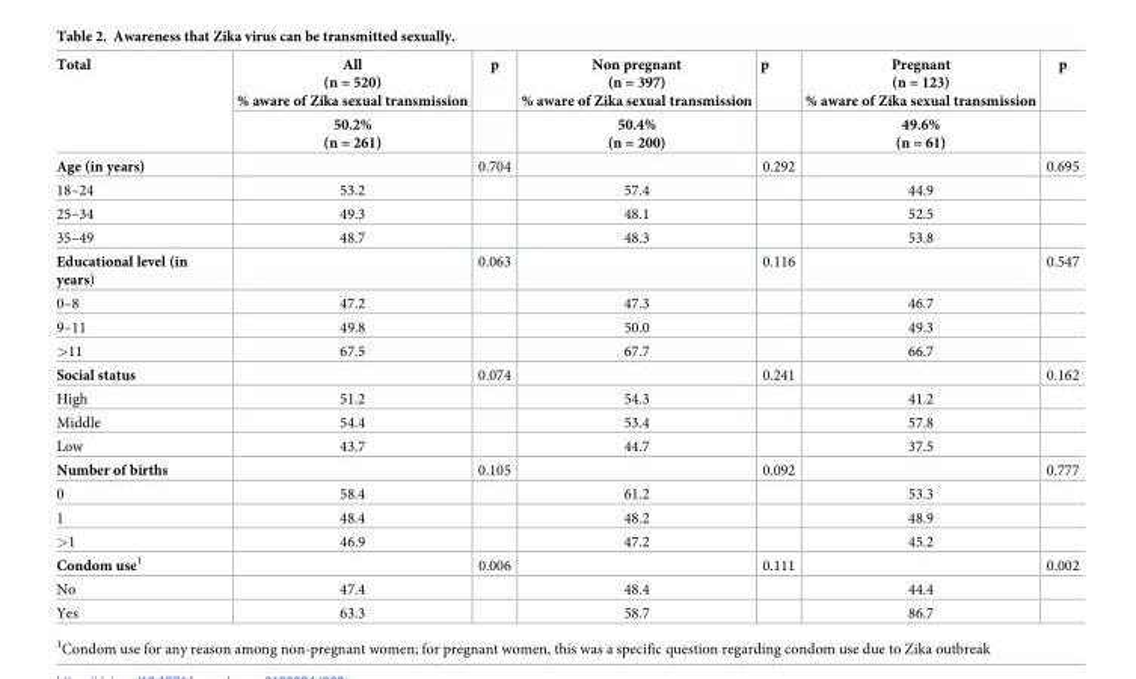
<table><thead><tr><td rowspan="2">Total</td><td rowspan="2">All (n = 520) % aware of Zika sexual transmission 50.2% (n = 261)</td><td rowspan="2">p</td><td rowspan="2">Non pregnant (n = 397) % aware of Zika sexual transmission 50.4% (n = 200)</td><td rowspan="2">p</td><td rowspan="2">Pregnant (n = 123) % aware of Zika sexual transmission 49.6% (n = 61)</td><td rowspan="2">p</td></tr><tr></tr></thead><tbody><tr><td>Age (in years)</td><td></td><td>0.704</td><td></td><td>0.292</td><td></td><td>0.695</td></tr><tr><td>18–24</td><td>53.2</td><td></td><td>57.4</td><td></td><td>44.9</td><td></td></tr><tr><td>25–34</td><td>49.3</td><td></td><td>48.1</td><td></td><td>52.5</td><td></td></tr><tr><td>35–49</td><td>48.7</td><td></td><td>48.3</td><td></td><td>53.8</td><td></td></tr><tr><td>Educational level (in years)</td><td></td><td>0.063</td><td></td><td>0.116</td><td></td><td>0.547</td></tr><tr><td>0–8</td><td>47.2</td><td></td><td>47.3</td><td></td><td>46.7</td><td></td></tr><tr><td>9–11</td><td>49.8</td><td></td><td>50.0</td><td></td><td>49.3</td><td></td></tr><tr><td>&gt;11</td><td>67.5</td><td></td><td>67.7</td><td></td><td>66.7</td><td></td></tr><tr><td>Social status</td><td></td><td>0.074</td><td></td><td>0.241</td><td></td><td>0.162</td></tr><tr><td>High</td><td>51.2</td><td></td><td>54.3</td><td></td><td>41.2</td><td></td></tr><tr><td>Middle</td><td>54.4</td><td></td><td>53.4</td><td></td><td>57.8</td><td></td></tr><tr><td>Low</td><td>43.7</td><td></td><td>44.7</td><td></td><td>37.5</td><td></td></tr><tr><td>Number of births</td><td></td><td>0.105</td><td></td><td>0.092</td><td></td><td>0.777</td></tr><tr><td>0</td><td>58.4</td><td></td><td>61.2</td><td></td><td>53.3</td><td></td></tr><tr><td>1</td><td>48.4</td><td></td><td>48.2</td><td></td><td>48.9</td><td></td></tr><tr><td>&gt;1</td><td>46.9</td><td></td><td>47.2</td><td></td><td>45.2</td><td></td></tr><tr><td>Condom use<sup>1</sup></td><td></td><td>0.006</td><td></td><td>0.111</td><td></td><td>0.002</td></tr><tr><td>No</td><td>47.4</td><td></td><td>48.4</td><td></td><td>44.4</td><td></td></tr><tr><td>Yes</td><td>63.3</td><td></td><td>58.7</td><td></td><td>86.7</td><td></td></tr></tbody></table>